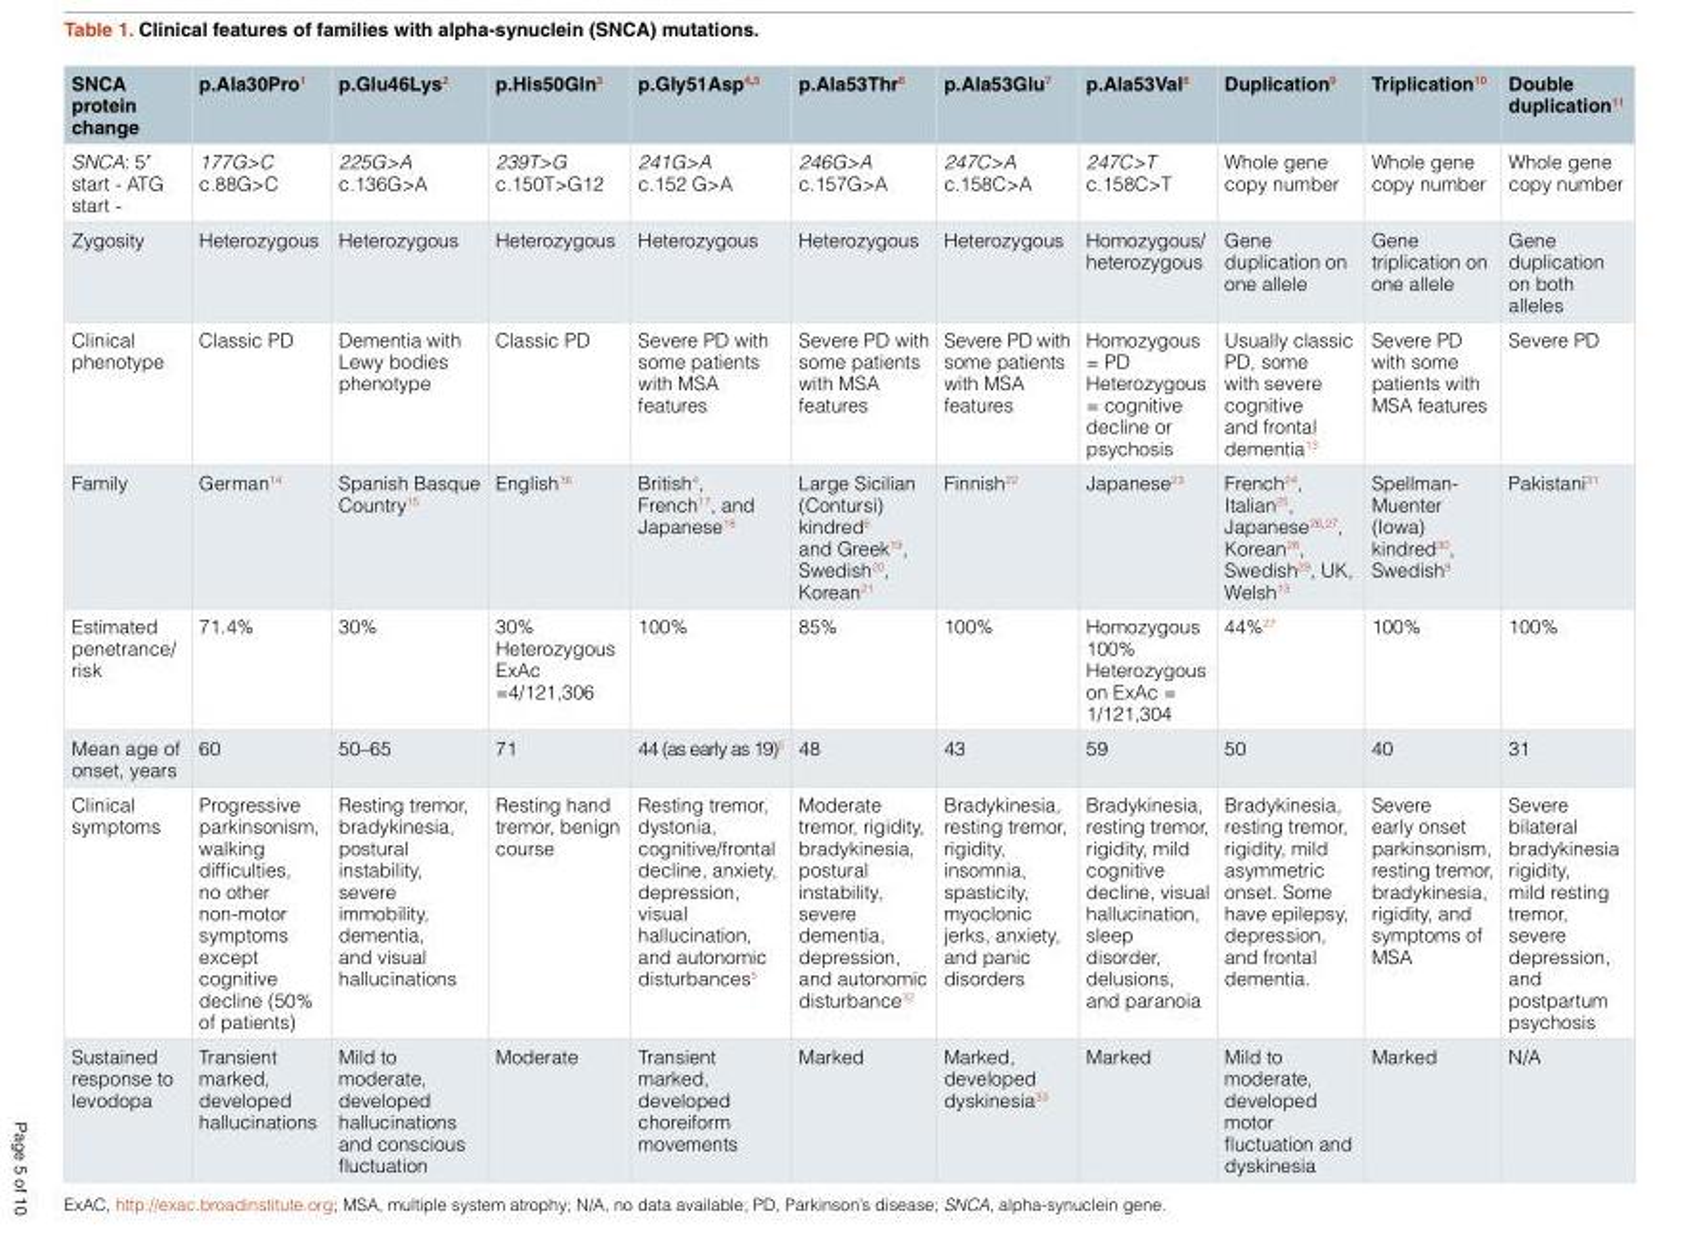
<table><thead><tr><td>SNCA protein change</td><td>p.Ala30Pro<sup>1</sup></td><td>p.Glu46Lys<sup>2</sup></td><td>p.His50Gln<sup>3</sup></td><td>p.Gly51Asp<sup>4,5</sup></td><td>p.Ala53Thr<sup>6</sup></td><td>p.Ala53Glu<sup>7</sup></td><td>p.Ala53Val<sup>8</sup></td><td>Duplication<sup>9</sup></td><td>Triplication<sup>10</sup></td><td>Double duplication<sup>11</sup></td></tr></thead><tbody><tr><td>SNCA: 5′ start - ATG start -</td><td>177G&gt;C c.88G&gt;C</td><td>225G&gt;A c.136G&gt;A</td><td>239T&gt;G c.150T&gt;G12</td><td>241G&gt;A c.152 G&gt;A</td><td>246G&gt;A c.157G&gt;A</td><td>247C&gt;A c.158C&gt;A</td><td>247C&gt;T c.158C&gt;T</td><td>Whole gene copy number</td><td>Whole gene copy number</td><td>Whole gene copy number</td></tr><tr><td>Zygosity</td><td>Heterozygous</td><td>Heterozygous</td><td>Heterozygous</td><td>Heterozygous</td><td>Heterozygous</td><td>Heterozygous</td><td>Homozygous/ heterozygous</td><td>Gene duplication on one allele</td><td>Gene triplication on one allele</td><td>Gene duplication on both alleles</td></tr><tr><td>Clinical phenotype</td><td>Classic PD</td><td>Dementia with Lewy bodies phenotype</td><td>Classic PD</td><td>Severe PD with some patients with MSA features</td><td>Severe PD with some patients with MSA features</td><td>Severe PD with some patients with MSA features</td><td>Homozygous = PD Heterozygous = cognitive decline or psychosis</td><td>Usually classic PD, some with severe cognitive and frontal dementia<sup>13</sup></td><td>Severe PD with some patients with MSA features</td><td>Severe PD</td></tr><tr><td>Family</td><td>German<sup>14</sup></td><td>Spanish Basque Country<sup>15</sup></td><td>English<sup>16</sup></td><td>British<sup>4</sup>, French<sup>17</sup>, and Japanese<sup>18</sup></td><td>Large Sicilian (Contursi) kindred<sup>6</sup> and Greek<sup>19</sup>, Swedish<sup>20</sup>, Korean<sup>21</sup></td><td>Finnish<sup>22</sup></td><td>Japanese<sup>23</sup></td><td>French<sup>24</sup>, Italian<sup>25</sup>, Japanese<sup>26,27</sup>, Korean<sup>28</sup>, Swedish<sup>29</sup>, UK, Welsh<sup>13</sup></td><td>Spellman- Muenter (Iowa) kindred<sup>30</sup>, Swedish<sup>9</sup></td><td>Pakistani<sup>31</sup></td></tr><tr><td>Estimated penetrance/ risk</td><td>71.4%</td><td>30%</td><td>30% Heterozygous ExAc =4/121,306</td><td>100%</td><td>85%</td><td>100%</td><td>Homozygous 100% Heterozygous on ExAc = 1/121,304</td><td>44%<sup>27</sup></td><td>100%</td><td>100%</td></tr><tr><td>Mean age of onset, years</td><td>60</td><td>50–65</td><td>71</td><td>44 (as early as 19)<sup>5</sup></td><td>48</td><td>43</td><td>59</td><td>50</td><td>40</td><td>31</td></tr><tr><td>Clinical symptoms</td><td>Progressive parkinsonism, walking difficulties, no other non-motor symptoms except cognitive decline (50% of patients)</td><td>Resting tremor, bradykinesia, postural instability, severe immobility, dementia, and visual hallucinations</td><td>Resting hand tremor, benign course</td><td>Resting tremor, dystonia, cognitive/frontal decline, anxiety, depression, visual hallucination, and autonomic disturbances<sup>5</sup></td><td>Moderate tremor, rigidity, bradykinesia, postural instability, severe dementia, depression, and autonomic disturbance<sup>32</sup></td><td>Bradykinesia, resting tremor, rigidity, insomnia, spasticity, myoclonic jerks, anxiety, and panic disorders</td><td>Bradykinesia, resting tremor, rigidity, mild cognitive decline, visual hallucination, sleep disorder, delusions, and paranoia</td><td>Bradykinesia, resting tremor, rigidity, mild asymmetric onset. Some have epilepsy, depression, and frontal dementia.</td><td>Severe early onset parkinsonism, resting tremor, bradykinesia, rigidity, and symptoms of MSA</td><td>Severe bilateral bradykinesia rigidity, mild resting tremor, severe depression, and postpartum psychosis</td></tr><tr><td>Sustained response to levodopa</td><td>Transient marked, developed hallucinations</td><td>Mild to moderate, developed hallucinations and conscious fluctuation</td><td>Moderate</td><td>Transient marked, developed choreiform movements</td><td>Marked</td><td>Marked, developed dyskinesia<sup>33</sup></td><td>Marked</td><td>Mild to moderate, developed motor fluctuation and dyskinesia</td><td>Marked</td><td>N/A</td></tr></tbody></table>